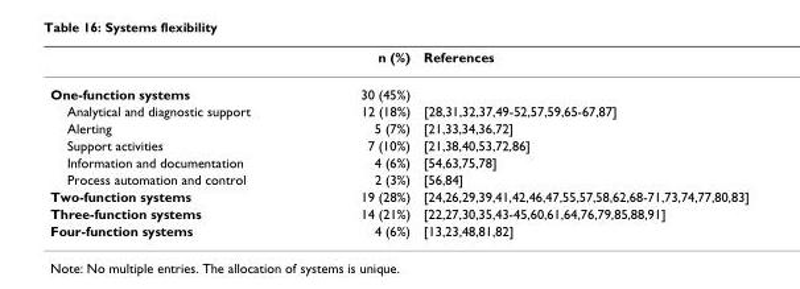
<table><thead><tr><td></td><td>n (%)</td><td>References</td></tr></thead><tbody><tr><td>One-function systems</td><td>30 (45%)</td><td></td></tr><tr><td>Analytical and diagnostic support</td><td>12 (18%)</td><td>[28,31,32,37,49-52,57,59,65-67,87]</td></tr><tr><td>Alerting</td><td>5 (7%)</td><td>[21,33,34,36,72]</td></tr><tr><td>Support activities</td><td>7 (10%)</td><td>[21,38,40,53,72,86]</td></tr><tr><td>Information and documentation</td><td>4 (6%)</td><td>[54,63,75,78]</td></tr><tr><td>Process automation and control</td><td>2 (3%)</td><td>[56,84]</td></tr><tr><td>Two-function systems</td><td>19 (28%)</td><td>[24,26,29,39,41,42,46,47,55,57,58,62,68-71,73,74,77,80,83]</td></tr><tr><td>Three-function systems</td><td>14 (21%)</td><td>[22,27,30,35,43-45,60,61,64,76,79,85,88,91]</td></tr><tr><td>Four-function systems</td><td>4 (6%)</td><td>[13,23,48,81,82]</td></tr></tbody></table>